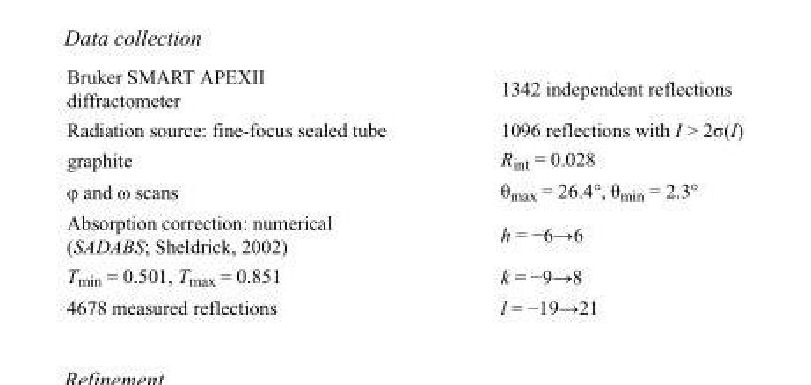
<table><tbody><tr><td>Bruker SMART APEXII diffractometer</td><td>1342 independent reflections</td></tr><tr><td>Radiation source: fine-focus sealed tube</td><td>1096 reflections with I &gt; 2σ(I)</td></tr><tr><td>graphite</td><td>R<sub>int</sub> = 0.028</td></tr><tr><td>φ and ω scans</td><td>θ<sub>max</sub> = 26.4°, θ<sub>min</sub> = 2.3°</td></tr><tr><td>Absorption correction: numerical (SADABS; Sheldrick, 2002)</td><td>h = −6→6</td></tr><tr><td>T<sub>min</sub> = 0.501, T<sub>max</sub> = 0.851</td><td>k = −9→8</td></tr><tr><td>4678 measured reflections</td><td>l = −19→21</td></tr></tbody></table>